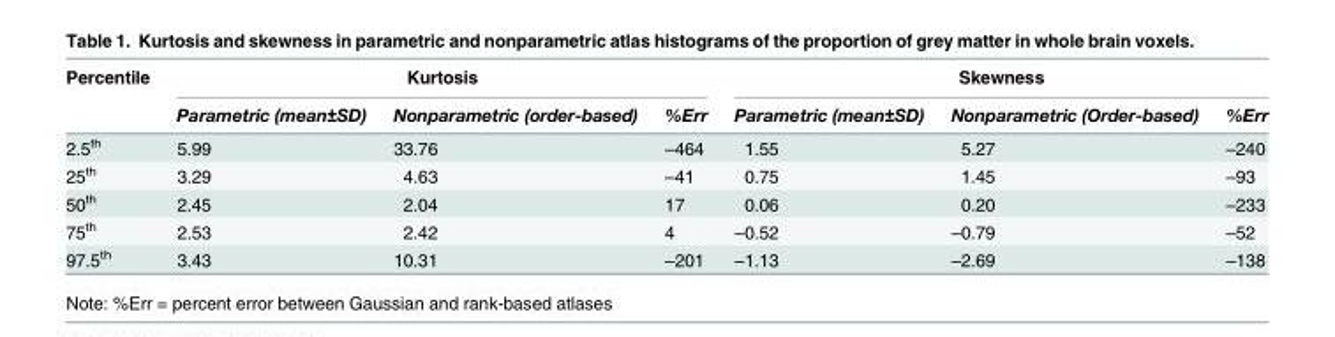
<table><thead><tr><td rowspan="2">Percentile</td><td colspan="3">Kurtosis</td><td colspan="3">Skewness</td></tr><tr><td>Parametric (mean±SD)</td><td>Nonparametric (order-based)</td><td>%Err</td><td>Parametric (mean±SD)</td><td>Nonparametric (Order-based)</td><td>%Err</td></tr></thead><tbody><tr><td>2.5<sup>th</sup></td><td>5.99</td><td>33.76</td><td>–464</td><td>1.55</td><td>5.27</td><td>–240</td></tr><tr><td>25<sup>th</sup></td><td>3.29</td><td>4.63</td><td>–41</td><td>0.75</td><td>1.45</td><td>–93</td></tr><tr><td>50<sup>th</sup></td><td>2.45</td><td>2.04</td><td>17</td><td>0.06</td><td>0.20</td><td>–233</td></tr><tr><td>75<sup>th</sup></td><td>2.53</td><td>2.42</td><td>4</td><td>–0.52</td><td>–0.79</td><td>–52</td></tr><tr><td>97.5<sup>th</sup></td><td>3.43</td><td>10.31</td><td>–201</td><td>–1.13</td><td>–2.69</td><td>–138</td></tr></tbody></table>